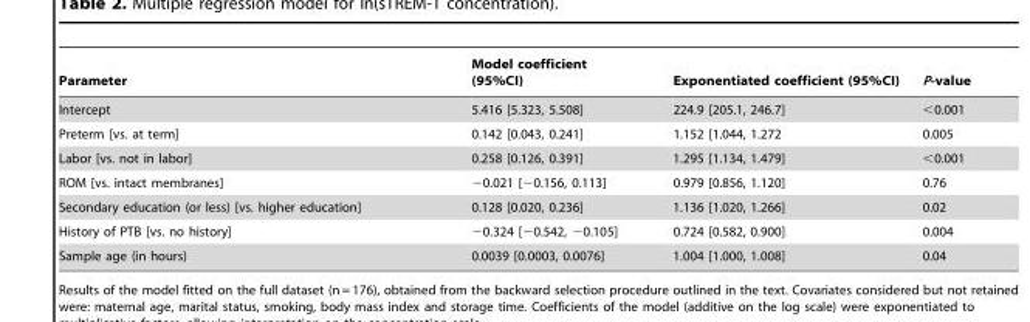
<table><thead><tr><td>Parameter</td><td>Model coefficient (95%CI)</td><td>Exponentiated coefficient (95%CI)</td><td>P-value</td></tr></thead><tbody><tr><td>Intercept</td><td>5.416 [5.323, 5.508]</td><td>224.9 [205.1, 246.7]</td><td>&lt;0.001</td></tr><tr><td>Preterm [vs. at term]</td><td>0.142 [0.043, 0.241]</td><td>1.152 [1.044, 1.272</td><td>0.005</td></tr><tr><td>Labor [vs. not in labor]</td><td>0.258 [0.126, 0.391]</td><td>1.295 [1.134, 1.479]</td><td>&lt;0.001</td></tr><tr><td>ROM [vs. intact membranes]</td><td>−0.021 [−0.156, 0.113]</td><td>0.979 [0.856, 1.120]</td><td>0.76</td></tr><tr><td>Secondary education (or less) [vs. higher education]</td><td>0.128 [0.020, 0.236]</td><td>1.136 [1.020, 1.266]</td><td>0.02</td></tr><tr><td>History of PTB [vs. no history]</td><td>−0.324 [−0.542, −0.105]</td><td>0.724 [0.582, 0.900]</td><td>0.004</td></tr><tr><td>Sample age (in hours)</td><td>0.0039 [0.0003, 0.0076]</td><td>1.004 [1.000, 1.008]</td><td>0.04</td></tr></tbody></table>